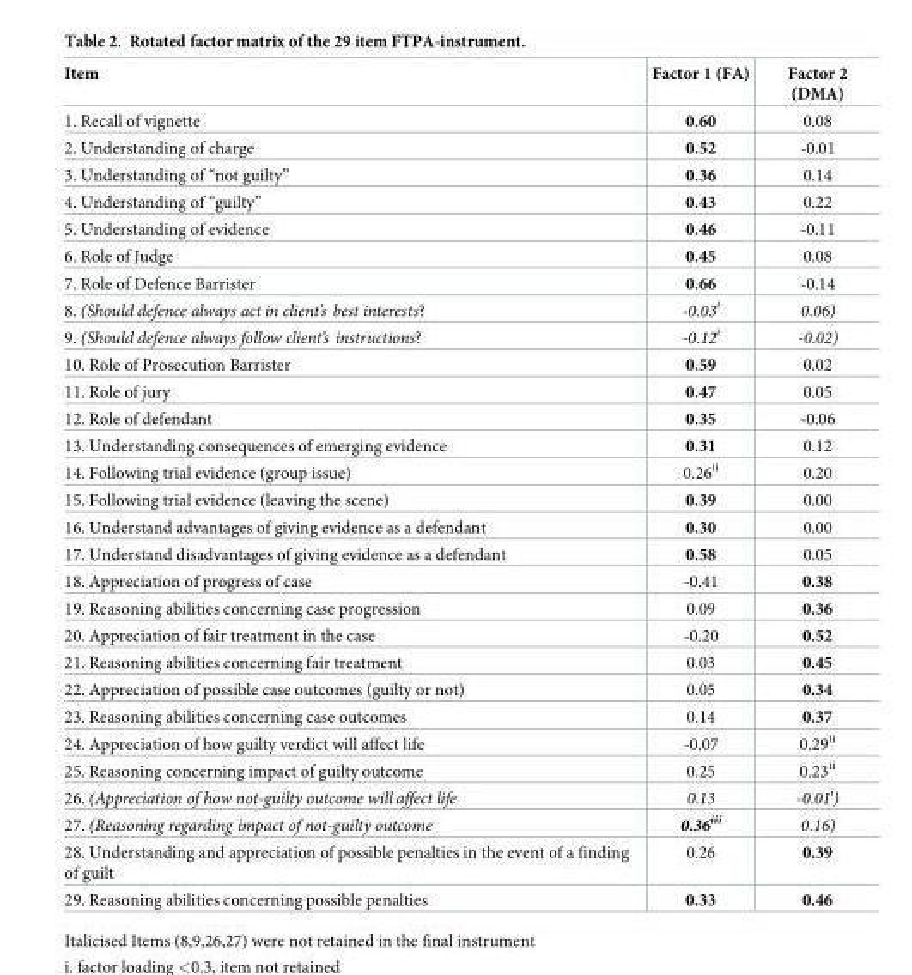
<table><thead><tr><td>Item</td><td>Factor 1 (FA)</td><td>Factor 2 (DMA)</td></tr></thead><tbody><tr><td>1. Recall of vignette</td><td>0.60</td><td>0.08</td></tr><tr><td>2. Understanding of charge</td><td>0.52</td><td>-0.01</td></tr><tr><td>3. Understanding of “not guilty”</td><td>0.36</td><td>0.14</td></tr><tr><td>4. Understanding of “guilty”</td><td>0.43</td><td>0.22</td></tr><tr><td>5. Understanding of evidence</td><td>0.46</td><td>-0.11</td></tr><tr><td>6. Role of Judge</td><td>0.45</td><td>0.08</td></tr><tr><td>7. Role of Defence Barrister</td><td>0.66</td><td>-0.14</td></tr><tr><td>8. (Should defence always act in client’s best interests?</td><td>-0.03<sup>i</sup></td><td>0.06)</td></tr><tr><td>9. (Should defence always follow client’s instructions?</td><td>-0.12<sup>i</sup></td><td>-0.02)</td></tr><tr><td>10. Role of Prosecution Barrister</td><td>0.59</td><td>0.02</td></tr><tr><td>11. Role of jury</td><td>0.47</td><td>0.05</td></tr><tr><td>12. Role of defendant</td><td>0.35</td><td>-0.06</td></tr><tr><td>13. Understanding consequences of emerging evidence</td><td>0.31</td><td>0.12</td></tr><tr><td>14. Following trial evidence (group issue)</td><td>0.26<sup>ii</sup></td><td>0.20</td></tr><tr><td>15. Following trial evidence (leaving the scene)</td><td>0.39</td><td>0.00</td></tr><tr><td>16. Understand advantages of giving evidence as a defendant</td><td>0.30</td><td>0.00</td></tr><tr><td>17. Understand disadvantages of giving evidence as a defendant</td><td>0.58</td><td>0.05</td></tr><tr><td>18. Appreciation of progress of case</td><td>-0.41</td><td>0.38</td></tr><tr><td>19. Reasoning abilities concerning case progression</td><td>0.09</td><td>0.36</td></tr><tr><td>20. Appreciation of fair treatment in the case</td><td>-0.20</td><td>0.52</td></tr><tr><td>21. Reasoning abilities concerning fair treatment</td><td>0.03</td><td>0.45</td></tr><tr><td>22. Appreciation of possible case outcomes (guilty or not)</td><td>0.05</td><td>0.34</td></tr><tr><td>23. Reasoning abilities concerning case outcomes</td><td>0.14</td><td>0.37</td></tr><tr><td>24. Appreciation of how guilty verdict will affect life</td><td>-0.07</td><td>0.29<sup>ii</sup></td></tr><tr><td>25. Reasoning concerning impact of guilty outcome</td><td>0.25</td><td>0.23<sup>ii</sup></td></tr><tr><td>26. (Appreciation of how not-guilty outcome will affect life</td><td>0.13</td><td>-0.01<sup>i</sup>)</td></tr><tr><td>27. (Reasoning regarding impact of not-guilty outcome</td><td>0.36<sup>iii</sup></td><td>0.16)</td></tr><tr><td>28. Understanding and appreciation of possible penalties in the event of a finding of guilt</td><td>0.26</td><td>0.39</td></tr><tr><td>29. Reasoning abilities concerning possible penalties</td><td>0.33</td><td>0.46</td></tr></tbody></table>